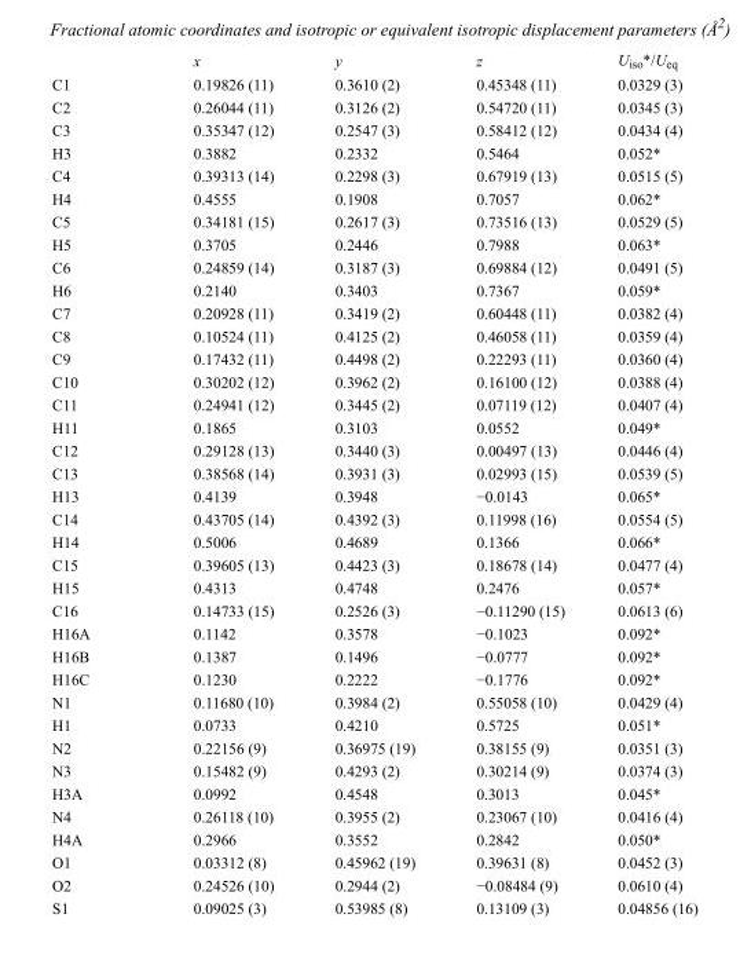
<table><thead><tr><td></td><td>x</td><td>y</td><td>z</td><td>U<sub>iso</sub>*/U<sub>eq</sub></td></tr></thead><tbody><tr><td>C1</td><td>0.19826 (11)</td><td>0.3610 (2)</td><td>0.45348 (11)</td><td>0.0329 (3)</td></tr><tr><td>C2</td><td>0.26044 (11)</td><td>0.3126 (2)</td><td>0.54720 (11)</td><td>0.0345 (3)</td></tr><tr><td>C3</td><td>0.35347 (12)</td><td>0.2547 (3)</td><td>0.58412 (12)</td><td>0.0434 (4)</td></tr><tr><td>H3</td><td>0.3882</td><td>0.2332</td><td>0.5464</td><td>0.052*</td></tr><tr><td>C4</td><td>0.39313 (14)</td><td>0.2298 (3)</td><td>0.67919 (13)</td><td>0.0515 (5)</td></tr><tr><td>H4</td><td>0.4555</td><td>0.1908</td><td>0.7057</td><td>0.062*</td></tr><tr><td>C5</td><td>0.34181 (15)</td><td>0.2617 (3)</td><td>0.73516 (13)</td><td>0.0529 (5)</td></tr><tr><td>H5</td><td>0.3705</td><td>0.2446</td><td>0.7988</td><td>0.063*</td></tr><tr><td>C6</td><td>0.24859 (14)</td><td>0.3187 (3)</td><td>0.69884 (12)</td><td>0.0491 (5)</td></tr><tr><td>H6</td><td>0.2140</td><td>0.3403</td><td>0.7367</td><td>0.059*</td></tr><tr><td>C7</td><td>0.20928 (11)</td><td>0.3419 (2)</td><td>0.60448 (11)</td><td>0.0382 (4)</td></tr><tr><td>C8</td><td>0.10524 (11)</td><td>0.4125 (2)</td><td>0.46058 (11)</td><td>0.0359 (4)</td></tr><tr><td>C9</td><td>0.17432 (11)</td><td>0.4498 (2)</td><td>0.22293 (11)</td><td>0.0360 (4)</td></tr><tr><td>C10</td><td>0.30202 (12)</td><td>0.3962 (2)</td><td>0.16100 (12)</td><td>0.0388 (4)</td></tr><tr><td>C11</td><td>0.24941 (12)</td><td>0.3445 (2)</td><td>0.07119 (12)</td><td>0.0407 (4)</td></tr><tr><td>H11</td><td>0.1865</td><td>0.3103</td><td>0.0552</td><td>0.049*</td></tr><tr><td>C12</td><td>0.29128 (13)</td><td>0.3440 (3)</td><td>0.00497 (13)</td><td>0.0446 (4)</td></tr><tr><td>C13</td><td>0.38568 (14)</td><td>0.3931 (3)</td><td>0.02993 (15)</td><td>0.0539 (5)</td></tr><tr><td>H13</td><td>0.4139</td><td>0.3948</td><td>−0.0143</td><td>0.065*</td></tr><tr><td>C14</td><td>0.43705 (14)</td><td>0.4392 (3)</td><td>0.11998 (16)</td><td>0.0554 (5)</td></tr><tr><td>H14</td><td>0.5006</td><td>0.4689</td><td>0.1366</td><td>0.066*</td></tr><tr><td>C15</td><td>0.39605 (13)</td><td>0.4423 (3)</td><td>0.18678 (14)</td><td>0.0477 (4)</td></tr><tr><td>H15</td><td>0.4313</td><td>0.4748</td><td>0.2476</td><td>0.057*</td></tr><tr><td>C16</td><td>0.14733 (15)</td><td>0.2526 (3)</td><td>−0.11290 (15)</td><td>0.0613 (6)</td></tr><tr><td>H16A</td><td>0.1142</td><td>0.3578</td><td>−0.1023</td><td>0.092*</td></tr><tr><td>H16B</td><td>0.1387</td><td>0.1496</td><td>−0.0777</td><td>0.092*</td></tr><tr><td>H16C</td><td>0.1230</td><td>0.2222</td><td>−0.1776</td><td>0.092*</td></tr><tr><td>N1</td><td>0.11680 (10)</td><td>0.3984 (2)</td><td>0.55058 (10)</td><td>0.0429 (4)</td></tr><tr><td>H1</td><td>0.0733</td><td>0.4210</td><td>0.5725</td><td>0.051*</td></tr><tr><td>N2</td><td>0.22156 (9)</td><td>0.36975 (19)</td><td>0.38155 (9)</td><td>0.0351 (3)</td></tr><tr><td>N3</td><td>0.15482 (9)</td><td>0.4293 (2)</td><td>0.30214 (9)</td><td>0.0374 (3)</td></tr><tr><td>H3A</td><td>0.0992</td><td>0.4548</td><td>0.3013</td><td>0.045*</td></tr><tr><td>N4</td><td>0.26118 (10)</td><td>0.3955 (2)</td><td>0.23067 (10)</td><td>0.0416 (4)</td></tr><tr><td>H4A</td><td>0.2966</td><td>0.3552</td><td>0.2842</td><td>0.050*</td></tr><tr><td>O1</td><td>0.03312 (8)</td><td>0.45962 (19)</td><td>0.39631 (8)</td><td>0.0452 (3)</td></tr><tr><td>O2</td><td>0.24526 (10)</td><td>0.2944 (2)</td><td>−0.08484 (9)</td><td>0.0610 (4)</td></tr><tr><td>S1</td><td>0.09025 (3)</td><td>0.53985 (8)</td><td>0.13109 (3)</td><td>0.04856 (16)</td></tr></tbody></table>